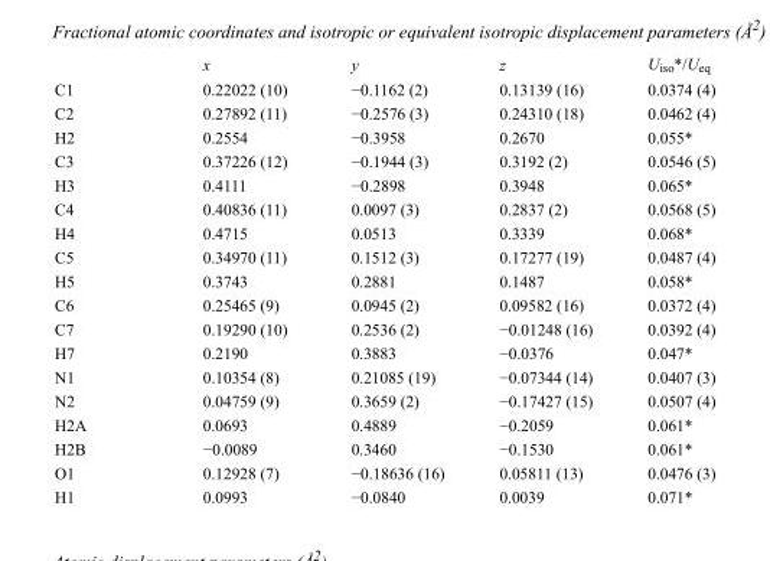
<table><thead><tr><td></td><td>x</td><td>y</td><td>z</td><td>U<sub>iso</sub>*/U<sub>eq</sub></td></tr></thead><tbody><tr><td>C1</td><td>0.22022 (10)</td><td>−0.1162 (2)</td><td>0.13139 (16)</td><td>0.0374 (4)</td></tr><tr><td>C2</td><td>0.27892 (11)</td><td>−0.2576 (3)</td><td>0.24310 (18)</td><td>0.0462 (4)</td></tr><tr><td>H2</td><td>0.2554</td><td>−0.3958</td><td>0.2670</td><td>0.055*</td></tr><tr><td>C3</td><td>0.37226 (12)</td><td>−0.1944 (3)</td><td>0.3192 (2)</td><td>0.0546 (5)</td></tr><tr><td>H3</td><td>0.4111</td><td>−0.2898</td><td>0.3948</td><td>0.065*</td></tr><tr><td>C4</td><td>0.40836 (11)</td><td>0.0097 (3)</td><td>0.2837 (2)</td><td>0.0568 (5)</td></tr><tr><td>H4</td><td>0.4715</td><td>0.0513</td><td>0.3339</td><td>0.068*</td></tr><tr><td>C5</td><td>0.34970 (11)</td><td>0.1512 (3)</td><td>0.17277 (19)</td><td>0.0487 (4)</td></tr><tr><td>H5</td><td>0.3743</td><td>0.2881</td><td>0.1487</td><td>0.058*</td></tr><tr><td>C6</td><td>0.25465 (9)</td><td>0.0945 (2)</td><td>0.09582 (16)</td><td>0.0372 (4)</td></tr><tr><td>C7</td><td>0.19290 (10)</td><td>0.2536 (2)</td><td>−0.01248 (16)</td><td>0.0392 (4)</td></tr><tr><td>H7</td><td>0.2190</td><td>0.3883</td><td>−0.0376</td><td>0.047*</td></tr><tr><td>N1</td><td>0.10354 (8)</td><td>0.21085 (19)</td><td>−0.07344 (14)</td><td>0.0407 (3)</td></tr><tr><td>N2</td><td>0.04759 (9)</td><td>0.3659 (2)</td><td>−0.17427 (15)</td><td>0.0507 (4)</td></tr><tr><td>H2A</td><td>0.0693</td><td>0.4889</td><td>−0.2059</td><td>0.061*</td></tr><tr><td>H2B</td><td>−0.0089</td><td>0.3460</td><td>−0.1530</td><td>0.061*</td></tr><tr><td>O1</td><td>0.12928 (7)</td><td>−0.18636 (16)</td><td>0.05811 (13)</td><td>0.0476 (3)</td></tr><tr><td>H1</td><td>0.0993</td><td>−0.0840</td><td>0.0039</td><td>0.071*</td></tr></tbody></table>